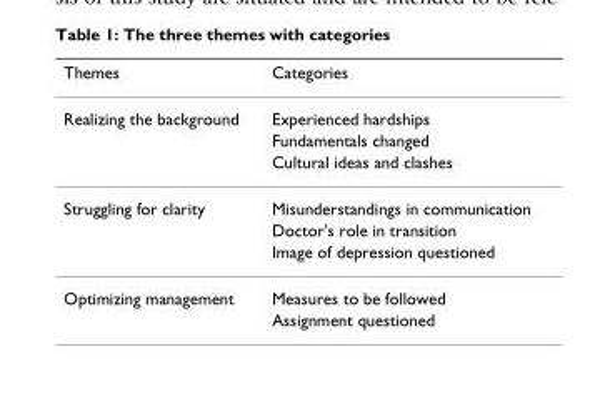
<table><thead><tr><td>Themes</td><td>Categories</td></tr></thead><tbody><tr><td rowspan="3">Realizing the background</td><td>Experienced hardships</td></tr><tr><td>Fundamentals changed</td></tr><tr><td>Cultural ideas and clashes</td></tr><tr><td rowspan="3">Struggling for clarity</td><td>Misunderstandings in communication</td></tr><tr><td>Doctor&#x27;s role in transition</td></tr><tr><td>Image of depression questioned</td></tr><tr><td rowspan="2">Optimizing management</td><td>Measures to be followed</td></tr><tr><td>Assignment questioned</td></tr></tbody></table>